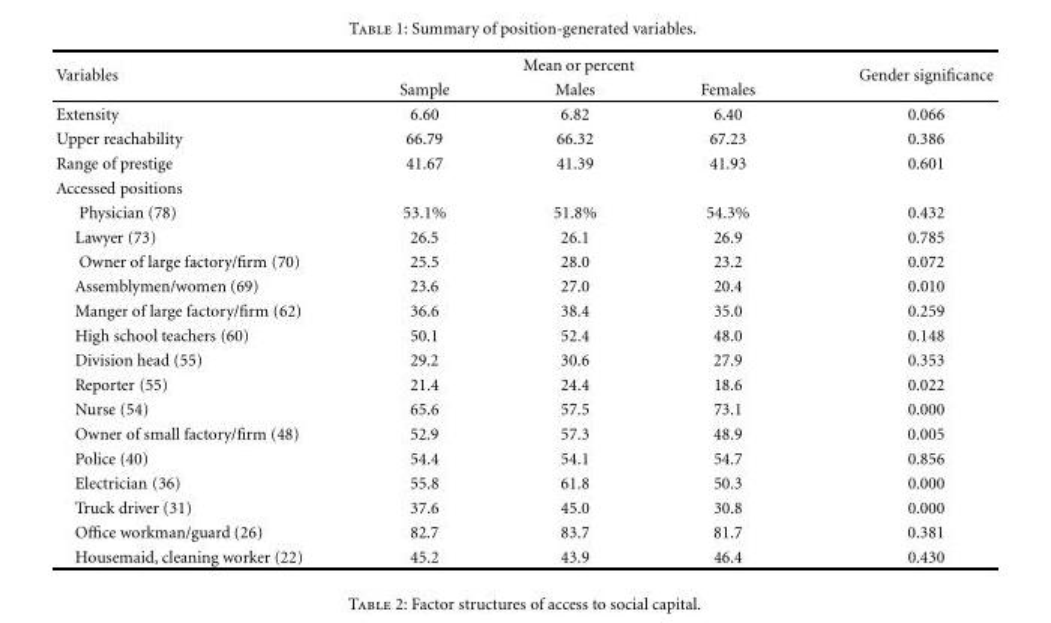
<table><thead><tr><td rowspan="2">Variables</td><td colspan="3">Mean or percent</td><td rowspan="2">Gender significance</td></tr><tr><td>Sample</td><td>Males</td><td>Females</td></tr></thead><tbody><tr><td>Extensity</td><td>6.60</td><td>6.82</td><td>6.40</td><td>0.066</td></tr><tr><td>Upper reachability</td><td>66.79</td><td>66.32</td><td>67.23</td><td>0.386</td></tr><tr><td>Range of prestige</td><td>41.67</td><td>41.39</td><td>41.93</td><td>0.601</td></tr><tr><td colspan="5">Accessed positions</td></tr><tr><td>Physician (78)</td><td>53.1%</td><td>51.8%</td><td>54.3%</td><td>0.432</td></tr><tr><td>Lawyer (73)</td><td>26.5</td><td>26.1</td><td>26.9</td><td>0.785</td></tr><tr><td>Owner of large factory/firm (70)</td><td>25.5</td><td>28.0</td><td>23.2</td><td>0.072</td></tr><tr><td>Assemblymen/women (69)</td><td>23.6</td><td>27.0</td><td>20.4</td><td>0.010</td></tr><tr><td>Manger of large factory/firm (62)</td><td>36.6</td><td>38.4</td><td>35.0</td><td>0.259</td></tr><tr><td>High school teachers (60)</td><td>50.1</td><td>52.4</td><td>48.0</td><td>0.148</td></tr><tr><td>Division head (55)</td><td>29.2</td><td>30.6</td><td>27.9</td><td>0.353</td></tr><tr><td>Reporter (55)</td><td>21.4</td><td>24.4</td><td>18.6</td><td>0.022</td></tr><tr><td>Nurse (54)</td><td>65.6</td><td>57.5</td><td>73.1</td><td>0.000</td></tr><tr><td>Owner of small factory/firm (48)</td><td>52.9</td><td>57.3</td><td>48.9</td><td>0.005</td></tr><tr><td>Police (40)</td><td>54.4</td><td>54.1</td><td>54.7</td><td>0.856</td></tr><tr><td>Electrician (36)</td><td>55.8</td><td>61.8</td><td>50.3</td><td>0.000</td></tr><tr><td>Truck driver (31)</td><td>37.6</td><td>45.0</td><td>30.8</td><td>0.000</td></tr><tr><td>Office workman/guard (26)</td><td>82.7</td><td>83.7</td><td>81.7</td><td>0.381</td></tr><tr><td>Housemaid, cleaning worker (22)</td><td>45.2</td><td>43.9</td><td>46.4</td><td>0.430</td></tr></tbody></table>